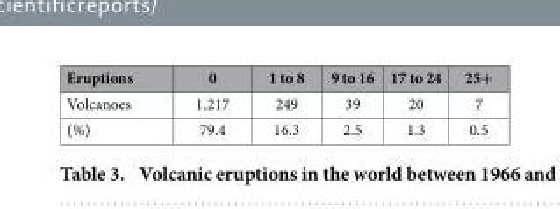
<table><thead><tr><td>Eruptions</td><td>0</td><td>1 to 8</td><td>9 to 16</td><td>17 to 24</td><td>25+</td></tr></thead><tbody><tr><td>Volcanoes</td><td>1,217</td><td>249</td><td>39</td><td>20</td><td>7</td></tr><tr><td>(%)</td><td>79.4</td><td>16.3</td><td>2.5</td><td>1.3</td><td>0.5</td></tr></tbody></table>